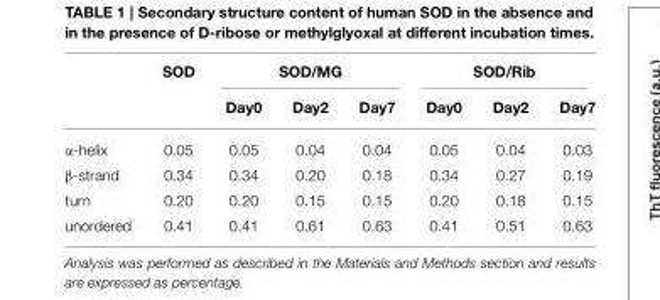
<table><thead><tr><td rowspan="2"></td><td rowspan="2">SOD</td><td colspan="3">SOD/MG</td><td colspan="3">SOD/Rib</td></tr><tr><td>Day0</td><td>Day2</td><td>Day7</td><td>Day0</td><td>Day2</td><td>Day7</td></tr></thead><tbody><tr><td>α-helix</td><td>0.05</td><td>0.05</td><td>0.04</td><td>0.04</td><td>0.05</td><td>0.04</td><td>0.03</td></tr><tr><td>β-strand</td><td>0.34</td><td>0.34</td><td>0.20</td><td>0.18</td><td>0.34</td><td>0.27</td><td>0.19</td></tr><tr><td>turn</td><td>0.20</td><td>0.20</td><td>0.15</td><td>0.15</td><td>0.20</td><td>0.18</td><td>0.15</td></tr><tr><td>unordered</td><td>0.41</td><td>0.41</td><td>0.61</td><td>0.63</td><td>0.41</td><td>0.51</td><td>0.63</td></tr></tbody></table>